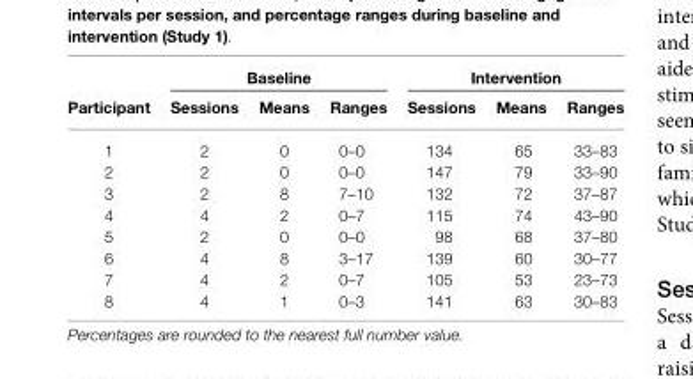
<table><thead><tr><td rowspan="2">Participant</td><td colspan="3">Baseline</td><td colspan="3">Intervention</td></tr><tr><td>Sessions</td><td>Means</td><td>Ranges</td><td>Sessions</td><td>Means</td><td>Ranges</td></tr></thead><tbody><tr><td>1</td><td>2</td><td>0</td><td>0–0</td><td>134</td><td>65</td><td>33–83</td></tr><tr><td>2</td><td>2</td><td>0</td><td>0–0</td><td>147</td><td>79</td><td>33–90</td></tr><tr><td>3</td><td>2</td><td>8</td><td>7–10</td><td>132</td><td>72</td><td>37–87</td></tr><tr><td>4</td><td>4</td><td>2</td><td>0–7</td><td>115</td><td>74</td><td>43–90</td></tr><tr><td>5</td><td>2</td><td>0</td><td>0–0</td><td>98</td><td>68</td><td>37–80</td></tr><tr><td>6</td><td>4</td><td>8</td><td>3–17</td><td>139</td><td>60</td><td>30–77</td></tr><tr><td>7</td><td>4</td><td>2</td><td>0–7</td><td>105</td><td>53</td><td>23–73</td></tr><tr><td>8</td><td>4</td><td>1</td><td>0–3</td><td>141</td><td>63</td><td>30–83</td></tr></tbody></table>